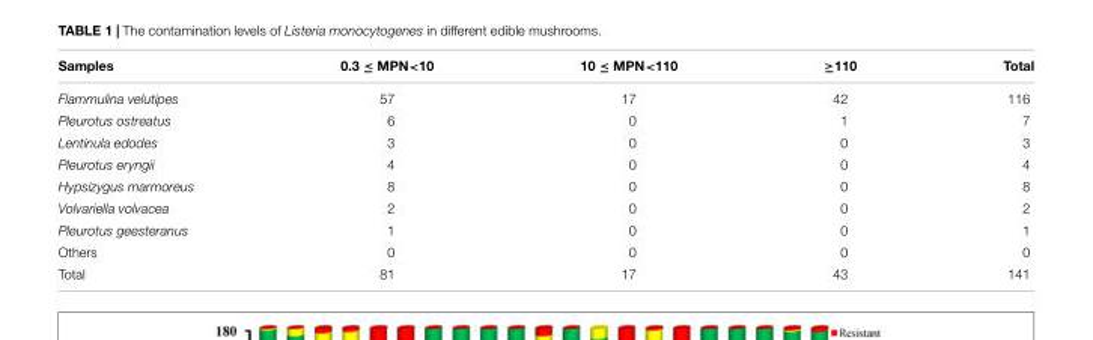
<table><thead><tr><td>Samples</td><td>0.3 ≤ MPN&lt;10</td><td>10 ≤ MPN&lt;110</td><td>≥110</td><td>Total</td></tr></thead><tbody><tr><td>Flammulina velutipes</td><td>57</td><td>17</td><td>42</td><td>116</td></tr><tr><td>Pleurotus ostreatus</td><td>6</td><td>0</td><td>1</td><td>7</td></tr><tr><td>Lentinula edodes</td><td>3</td><td>0</td><td>0</td><td>3</td></tr><tr><td>Pleurotus eryngii</td><td>4</td><td>0</td><td>0</td><td>4</td></tr><tr><td>Hypsizygus marmoreus</td><td>8</td><td>0</td><td>0</td><td>8</td></tr><tr><td>Volvariella volvacea</td><td>2</td><td>0</td><td>0</td><td>2</td></tr><tr><td>Pleurotus geesteranus</td><td>1</td><td>0</td><td>0</td><td>1</td></tr><tr><td>Others</td><td>0</td><td>0</td><td>0</td><td>0</td></tr><tr><td>Total</td><td>81</td><td>17</td><td>43</td><td>141</td></tr></tbody></table>